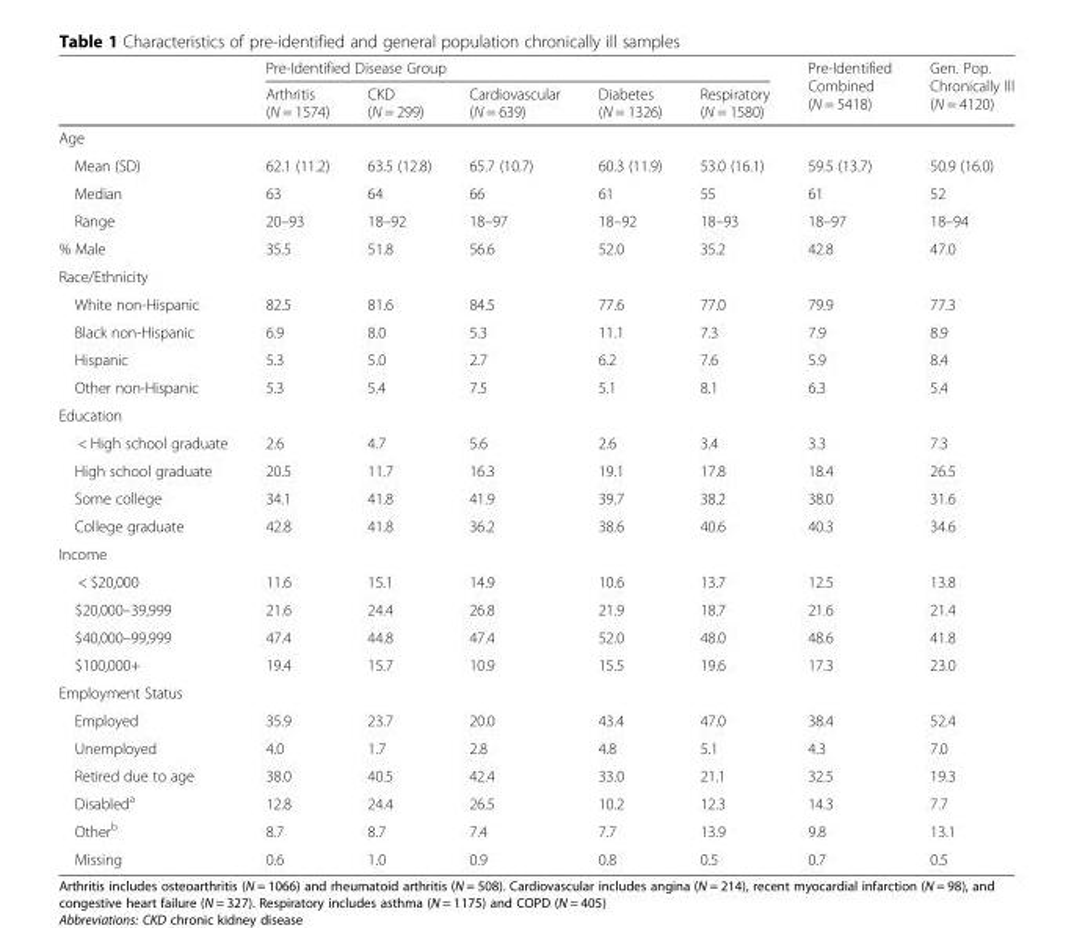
<table><thead><tr><td rowspan="2"></td><td colspan="5">Pre-Identified Disease Group</td><td rowspan="2">Pre-Identified Combined (N = 5418)</td><td rowspan="2">Gen. Pop. Chronically Ill (N = 4120)</td></tr><tr><td>Arthritis (N = 1574)</td><td>CKD (N = 299)</td><td>Cardiovascular (N = 639)</td><td>Diabetes (N = 1326)</td><td>Respiratory (N = 1580)</td></tr></thead><tbody><tr><td colspan="8">Age</td></tr><tr><td>Mean (SD)</td><td>62.1 (11.2)</td><td>63.5 (12.8)</td><td>65.7 (10.7)</td><td>60.3 (11.9)</td><td>53.0 (16.1)</td><td>59.5 (13.7)</td><td>50.9 (16.0)</td></tr><tr><td>Median</td><td>63</td><td>64</td><td>66</td><td>61</td><td>55</td><td>61</td><td>52</td></tr><tr><td>Range</td><td>20–93</td><td>18–92</td><td>18–97</td><td>18–92</td><td>18–93</td><td>18–97</td><td>18–94</td></tr><tr><td>% Male</td><td>35.5</td><td>51.8</td><td>56.6</td><td>52.0</td><td>35.2</td><td>42.8</td><td>47.0</td></tr><tr><td colspan="8">Race/Ethnicity</td></tr><tr><td>White non-Hispanic</td><td>82.5</td><td>81.6</td><td>84.5</td><td>77.6</td><td>77.0</td><td>79.9</td><td>77.3</td></tr><tr><td>Black non-Hispanic</td><td>6.9</td><td>8.0</td><td>5.3</td><td>11.1</td><td>7.3</td><td>7.9</td><td>8.9</td></tr><tr><td>Hispanic</td><td>5.3</td><td>5.0</td><td>2.7</td><td>6.2</td><td>7.6</td><td>5.9</td><td>8.4</td></tr><tr><td>Other non-Hispanic</td><td>5.3</td><td>5.4</td><td>7.5</td><td>5.1</td><td>8.1</td><td>6.3</td><td>5.4</td></tr><tr><td colspan="8">Education</td></tr><tr><td>&lt; High school graduate</td><td>2.6</td><td>4.7</td><td>5.6</td><td>2.6</td><td>3.4</td><td>3.3</td><td>7.3</td></tr><tr><td>High school graduate</td><td>20.5</td><td>11.7</td><td>16.3</td><td>19.1</td><td>17.8</td><td>18.4</td><td>26.5</td></tr><tr><td>Some college</td><td>34.1</td><td>41.8</td><td>41.9</td><td>39.7</td><td>38.2</td><td>38.0</td><td>31.6</td></tr><tr><td>College graduate</td><td>42.8</td><td>41.8</td><td>36.2</td><td>38.6</td><td>40.6</td><td>40.3</td><td>34.6</td></tr><tr><td colspan="8">Income</td></tr><tr><td>&lt; $20,000</td><td>11.6</td><td>15.1</td><td>14.9</td><td>10.6</td><td>13.7</td><td>12.5</td><td>13.8</td></tr><tr><td>$20,000–39,999</td><td>21.6</td><td>24.4</td><td>26.8</td><td>21.9</td><td>18.7</td><td>21.6</td><td>21.4</td></tr><tr><td>$40,000–99,999</td><td>47.4</td><td>44.8</td><td>47.4</td><td>52.0</td><td>48.0</td><td>48.6</td><td>41.8</td></tr><tr><td>$100,000+</td><td>19.4</td><td>15.7</td><td>10.9</td><td>15.5</td><td>19.6</td><td>17.3</td><td>23.0</td></tr><tr><td colspan="8">Employment Status</td></tr><tr><td>Employed</td><td>35.9</td><td>23.7</td><td>20.0</td><td>43.4</td><td>47.0</td><td>38.4</td><td>52.4</td></tr><tr><td>Unemployed</td><td>4.0</td><td>1.7</td><td>2.8</td><td>4.8</td><td>5.1</td><td>4.3</td><td>7.0</td></tr><tr><td>Retired due to age</td><td>38.0</td><td>40.5</td><td>42.4</td><td>33.0</td><td>21.1</td><td>32.5</td><td>19.3</td></tr><tr><td>Disabled<sup>a</sup></td><td>12.8</td><td>24.4</td><td>26.5</td><td>10.2</td><td>12.3</td><td>14.3</td><td>7.7</td></tr><tr><td>Other<sup>b</sup></td><td>8.7</td><td>8.7</td><td>7.4</td><td>7.7</td><td>13.9</td><td>9.8</td><td>13.1</td></tr><tr><td>Missing</td><td>0.6</td><td>1.0</td><td>0.9</td><td>0.8</td><td>0.5</td><td>0.7</td><td>0.5</td></tr></tbody></table>